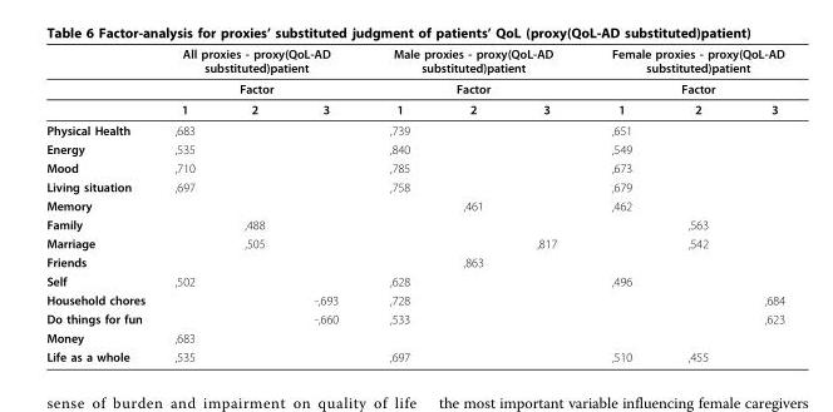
<table><thead><tr><td rowspan="3"></td><td rowspan="2" colspan="3">All proxies - proxy(QoL-AD substituted)patient Factor</td><td rowspan="2" colspan="3">Male proxies - proxy(QoL-AD substituted)patient Factor</td><td rowspan="2" colspan="3">Female proxies - proxy(QoL-AD substituted)patient Factor</td></tr><tr></tr><tr><td>1</td><td>2</td><td>3</td><td>1</td><td>2</td><td>3</td><td>1</td><td>2</td><td>3</td></tr></thead><tbody><tr><td>Physical Health</td><td>,683</td><td></td><td></td><td>,739</td><td></td><td></td><td>,651</td><td></td><td></td></tr><tr><td>Energy</td><td>,535</td><td></td><td></td><td>,840</td><td></td><td></td><td>,549</td><td></td><td></td></tr><tr><td>Mood</td><td>,710</td><td></td><td></td><td>,785</td><td></td><td></td><td>,673</td><td></td><td></td></tr><tr><td>Living situation</td><td>,697</td><td></td><td></td><td>,758</td><td></td><td></td><td>,679</td><td></td><td></td></tr><tr><td>Memory</td><td></td><td></td><td></td><td></td><td>,461</td><td></td><td>,462</td><td></td><td></td></tr><tr><td>Family</td><td></td><td>,488</td><td></td><td></td><td></td><td></td><td></td><td>,563</td><td></td></tr><tr><td>Marriage</td><td></td><td>,505</td><td></td><td></td><td></td><td>,817</td><td></td><td>,542</td><td></td></tr><tr><td>Friends</td><td></td><td></td><td></td><td></td><td>,863</td><td></td><td></td><td></td><td></td></tr><tr><td>Self</td><td>,502</td><td></td><td></td><td>,628</td><td></td><td></td><td>,496</td><td></td><td></td></tr><tr><td>Household chores</td><td></td><td></td><td>-,693</td><td>,728</td><td></td><td></td><td></td><td></td><td>,684</td></tr><tr><td>Do things for fun</td><td></td><td></td><td>-,660</td><td>,533</td><td></td><td></td><td></td><td></td><td>,623</td></tr><tr><td>Money</td><td>,683</td><td></td><td></td><td></td><td></td><td></td><td></td><td></td><td></td></tr><tr><td>Life as a whole</td><td>,535</td><td></td><td></td><td>,697</td><td></td><td></td><td>,510</td><td>,455</td><td></td></tr></tbody></table>